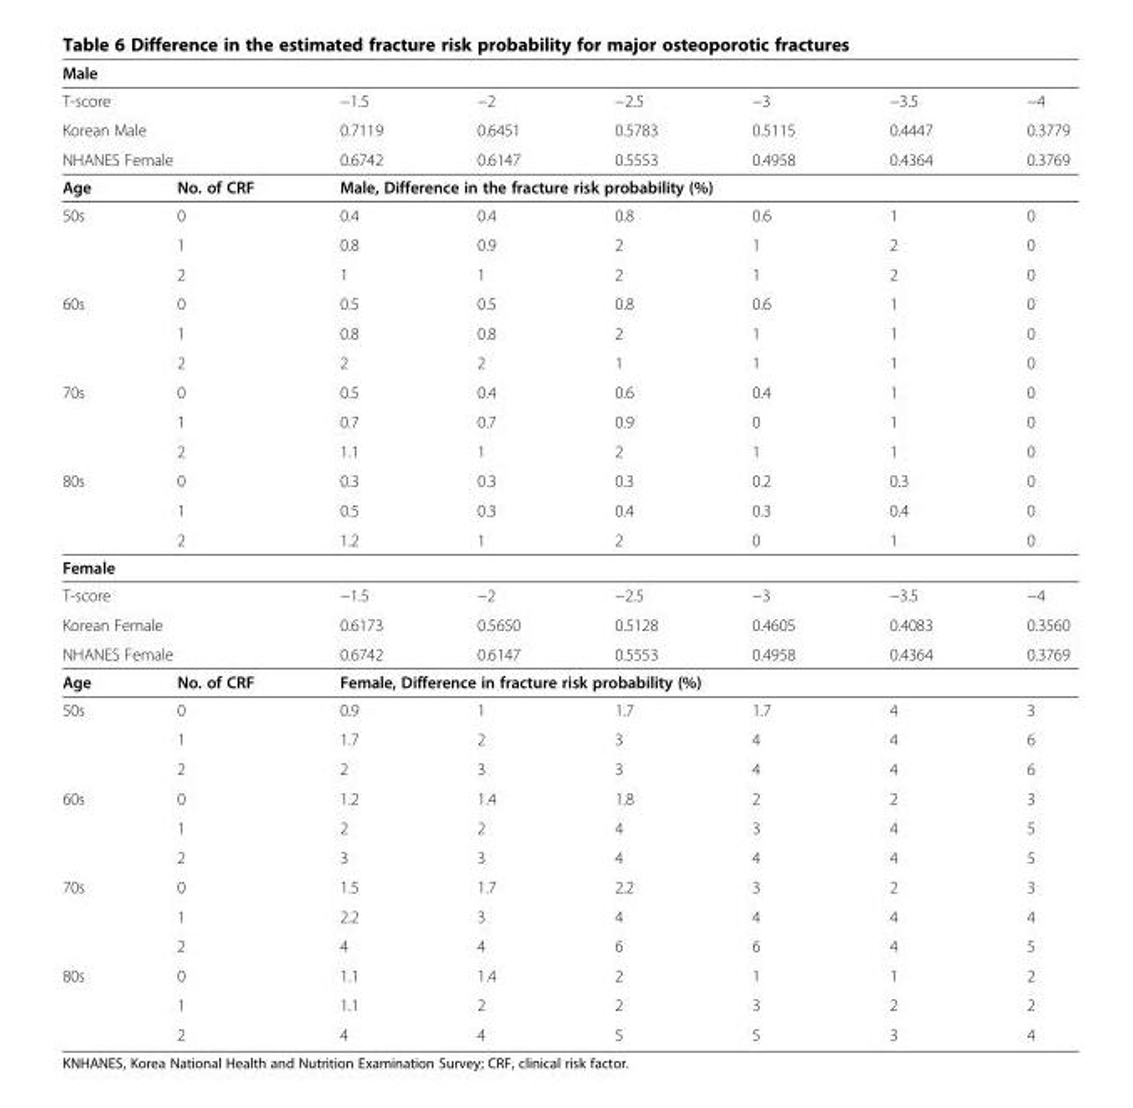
<table><tbody><tr><td colspan="8">Male</td></tr><tr><td colspan="2">T-score</td><td>−1.5</td><td>−2</td><td>−2.5</td><td>−3</td><td>−3.5</td><td>−4</td></tr><tr><td colspan="2">Korean Male</td><td>0.7119</td><td>0.6451</td><td>0.5783</td><td>0.5115</td><td>0.4447</td><td>0.3779</td></tr><tr><td colspan="2">NHANES Female</td><td>0.6742</td><td>0.6147</td><td>0.5553</td><td>0.4958</td><td>0.4364</td><td>0.3769</td></tr><tr><td>Age</td><td>No. of CRF</td><td colspan="6">Male, Difference in the fracture risk probability (%)</td></tr><tr><td rowspan="3">50s</td><td>0</td><td>0.4</td><td>0.4</td><td>0.8</td><td>0.6</td><td>1</td><td>0</td></tr><tr><td>1</td><td>0.8</td><td>0.9</td><td>2</td><td>1</td><td>2</td><td>0</td></tr><tr><td>2</td><td>1</td><td>1</td><td>2</td><td>1</td><td>2</td><td>0</td></tr><tr><td rowspan="3">60s</td><td>0</td><td>0.5</td><td>0.5</td><td>0.8</td><td>0.6</td><td>1</td><td>0</td></tr><tr><td>1</td><td>0.8</td><td>0.8</td><td>2</td><td>1</td><td>1</td><td>0</td></tr><tr><td>2</td><td>2</td><td>2</td><td>1</td><td>1</td><td>1</td><td>0</td></tr><tr><td rowspan="3">70s</td><td>0</td><td>0.5</td><td>0.4</td><td>0.6</td><td>0.4</td><td>1</td><td>0</td></tr><tr><td>1</td><td>0.7</td><td>0.7</td><td>0.9</td><td>0</td><td>1</td><td>0</td></tr><tr><td>2</td><td>1.1</td><td>1</td><td>2</td><td>1</td><td>1</td><td>0</td></tr><tr><td rowspan="3">80s</td><td>0</td><td>0.3</td><td>0.3</td><td>0.3</td><td>0.2</td><td>0.3</td><td>0</td></tr><tr><td>1</td><td>0.5</td><td>0.3</td><td>0.4</td><td>0.3</td><td>0.4</td><td>0</td></tr><tr><td>2</td><td>1.2</td><td>1</td><td>2</td><td>0</td><td>1</td><td>0</td></tr><tr><td colspan="8">Female</td></tr><tr><td colspan="2">T-score</td><td>−1.5</td><td>−2</td><td>−2.5</td><td>−3</td><td>−3.5</td><td>−4</td></tr><tr><td colspan="2">Korean Female</td><td>0.6173</td><td>0.5650</td><td>0.5128</td><td>0.4605</td><td>0.4083</td><td>0.3560</td></tr><tr><td colspan="2">NHANES Female</td><td>0.6742</td><td>0.6147</td><td>0.5553</td><td>0.4958</td><td>0.4364</td><td>0.3769</td></tr><tr><td>Age</td><td>No. of CRF</td><td colspan="6">Female, Difference in fracture risk probability (%)</td></tr><tr><td rowspan="3">50s</td><td>0</td><td>0.9</td><td>1</td><td>1.7</td><td>1.7</td><td>4</td><td>3</td></tr><tr><td>1</td><td>1.7</td><td>2</td><td>3</td><td>4</td><td>4</td><td>6</td></tr><tr><td>2</td><td>2</td><td>3</td><td>3</td><td>4</td><td>4</td><td>6</td></tr><tr><td rowspan="3">60s</td><td>0</td><td>1.2</td><td>1.4</td><td>1.8</td><td>2</td><td>2</td><td>3</td></tr><tr><td>1</td><td>2</td><td>2</td><td>4</td><td>3</td><td>4</td><td>5</td></tr><tr><td>2</td><td>3</td><td>3</td><td>4</td><td>4</td><td>4</td><td>5</td></tr><tr><td rowspan="3">70s</td><td>0</td><td>1.5</td><td>1.7</td><td>2.2</td><td>3</td><td>2</td><td>3</td></tr><tr><td>1</td><td>2.2</td><td>3</td><td>4</td><td>4</td><td>4</td><td>4</td></tr><tr><td>2</td><td>4</td><td>4</td><td>6</td><td>6</td><td>4</td><td>5</td></tr><tr><td rowspan="3">80s</td><td>0</td><td>1.1</td><td>1.4</td><td>2</td><td>1</td><td>1</td><td>2</td></tr><tr><td>1</td><td>1.1</td><td>2</td><td>2</td><td>3</td><td>2</td><td>2</td></tr><tr><td>2</td><td>4</td><td>4</td><td>5</td><td>5</td><td>3</td><td>4</td></tr></tbody></table>